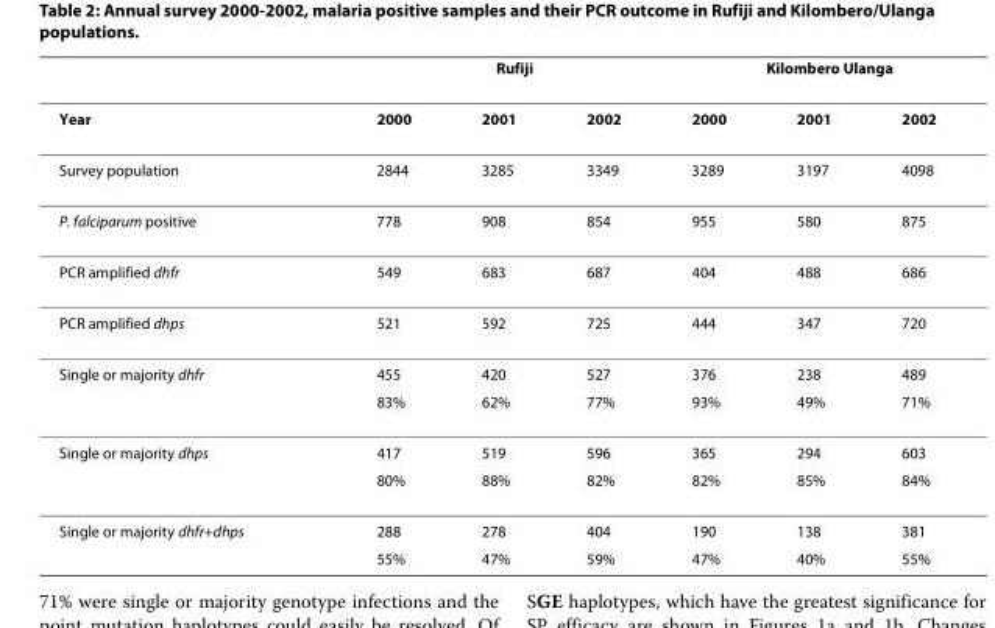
<table><thead><tr><td rowspan="2">Year</td><td colspan="3">Rufiji</td><td colspan="3">Kilombero Ulanga</td></tr><tr><td>2000</td><td>2001</td><td>2002</td><td>2000</td><td>2001</td><td>2002</td></tr></thead><tbody><tr><td>Survey population</td><td>2844</td><td>3285</td><td>3349</td><td>3289</td><td>3197</td><td>4098</td></tr><tr><td>P. falciparum positive</td><td>778</td><td>908</td><td>854</td><td>955</td><td>580</td><td>875</td></tr><tr><td>PCR amplified dhfr</td><td>549</td><td>683</td><td>687</td><td>404</td><td>488</td><td>686</td></tr><tr><td>PCR amplified dhps</td><td>521</td><td>592</td><td>725</td><td>444</td><td>347</td><td>720</td></tr><tr><td rowspan="2">Single or majority dhfr</td><td>455</td><td>420</td><td>527</td><td>376</td><td>238</td><td>489</td></tr><tr><td>83%</td><td>62%</td><td>77%</td><td>93%</td><td>49%</td><td>71%</td></tr><tr><td rowspan="2">Single or majority dhps</td><td>417</td><td>519</td><td>596</td><td>365</td><td>294</td><td>603</td></tr><tr><td>80%</td><td>88%</td><td>82%</td><td>82%</td><td>85%</td><td>84%</td></tr><tr><td rowspan="2">Single or majority dhfr+dhps</td><td>288</td><td>278</td><td>404</td><td>190</td><td>138</td><td>381</td></tr><tr><td>55%</td><td>47%</td><td>59%</td><td>47%</td><td>40%</td><td>55%</td></tr></tbody></table>